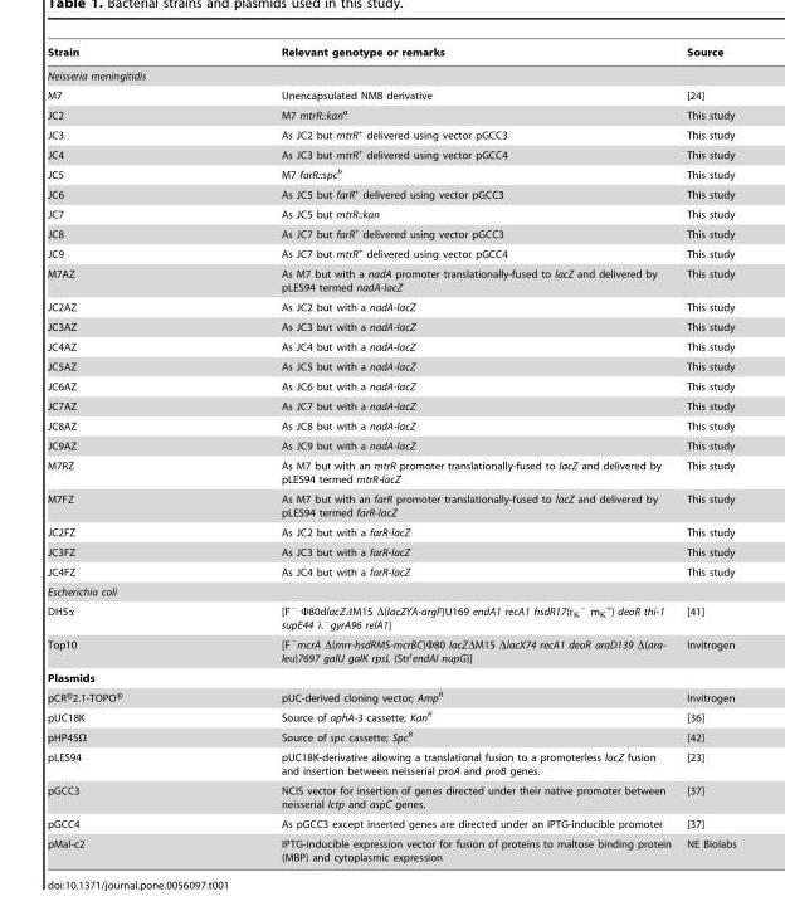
<table><thead><tr><td>Strain</td><td>Relevant genotype or remarks</td><td>Source</td></tr></thead><tbody><tr><td colspan="3">Neisseria meningitidis</td></tr><tr><td>M7</td><td>Unencapsulated NMB derivative</td><td>[24]</td></tr><tr><td>JC2</td><td>M7 mtrR::kan<sup>a</sup></td><td>This study</td></tr><tr><td>JC3</td><td>As JC2 but mtrR<sup>+</sup> delivered using vector pGCC3</td><td>This study</td></tr><tr><td>JC4</td><td>As JC3 but mtrR<sup>+</sup> delivered using vector pGCC4</td><td>This study</td></tr><tr><td>JC5</td><td>M7 farR::spc<sup>b</sup></td><td>This study</td></tr><tr><td>JC6</td><td>As JC5 but farR<sup>+</sup> delivered using vector pGCC3</td><td>This study</td></tr><tr><td>JC7</td><td>As JC5 but mtrR::kan</td><td>This study</td></tr><tr><td>JC8</td><td>As JC7 but farR<sup>+</sup> delivered using vector pGCC3</td><td>This study</td></tr><tr><td>JC9</td><td>As JC7 but mtrR<sup>+</sup> delivered using vector pGCC4</td><td>This study</td></tr><tr><td>M7AZ</td><td>As M7 but with a nadA promoter translationally-fused to lacZ and delivered by pLES94 termed nadA-lacZ</td><td>This study</td></tr><tr><td>JC2AZ</td><td>As JC2 but with a nadA-lacZ</td><td>This study</td></tr><tr><td>JC3AZ</td><td>As JC3 but with a nadA-lacZ</td><td>This study</td></tr><tr><td>JC4AZ</td><td>As JC4 but with a nadA-lacZ</td><td>This study</td></tr><tr><td>JC5AZ</td><td>As JC5 but with a nadA-lacZ</td><td>This study</td></tr><tr><td>JC6AZ</td><td>As JC6 but with a nadA-lacZ</td><td>This study</td></tr><tr><td>JC7AZ</td><td>As JC7 but with a nadA-lacZ</td><td>This study</td></tr><tr><td>JC8AZ</td><td>As JC8 but with a nadA-lacZ</td><td>This study</td></tr><tr><td>JC9AZ</td><td>As JC9 but with a nadA-lacZ</td><td>This study</td></tr><tr><td>M7RZ</td><td>As M7 but with an mtrR promoter translationally-fused to lacZ and delivered by pLES94 termed mtrR-lacZ</td><td>This study</td></tr><tr><td>M7FZ</td><td>As M7 but with an farR promoter translationally-fused to lacZ and delivered by pLES94 termed farR-lacZ</td><td>This study</td></tr><tr><td>JC2FZ</td><td>As JC2 but with a farR-lacZ</td><td>This study</td></tr><tr><td>JC3FZ</td><td>As JC3 but with a farR-lacZ</td><td>This study</td></tr><tr><td>JC4FZ</td><td>As JC4 but with a farR-lacZ</td><td>This study</td></tr><tr><td colspan="3">Escherichia coli</td></tr><tr><td>DH5α</td><td>[F− Φ80dlacZΔM15 Δ(lacZYA-argF)U169 endA1 recA1 hsdR17(rK − mK +) deoR thi-1 supE44 λ−gyrA96 relA1]</td><td>[41]</td></tr><tr><td>Top10</td><td>[F<sup>−</sup>mcrA Δ(mrr-hsdRMS-mcrBC)Φ80 lacZΔM15 ΔlacX74 recA1 deoR araD139 Δ(ara- leu)7697 galU galK rpsL (Str<sup>r</sup>endAI nupG)]</td><td>Invitrogen</td></tr><tr><td colspan="3">Plasmids</td></tr><tr><td>pCR®2.1-TOPO®</td><td>pUC-derived cloning vector; Amp<sup>R</sup></td><td>Invitrogen</td></tr><tr><td>pUC18K</td><td>Source of aphA-3 cassette; Kan<sup>R</sup></td><td>[36]</td></tr><tr><td>pHP45Ω</td><td>Source of spc cassette; Spc<sup>R</sup></td><td>[42]</td></tr><tr><td>pLES94</td><td>pUC18K-derivative allowing a translational fusion to a promoterless lacZ fusion and insertion between neisserial proA and proB genes.</td><td>[23]</td></tr><tr><td>pGCC3</td><td>NCIS vector for insertion of genes directed under their native promoter between neisserial lctp and aspC genes.</td><td>[37]</td></tr><tr><td>pGCC4</td><td>As pGCC3 except inserted genes are directed under an IPTG-inducible promoter</td><td>[37]</td></tr><tr><td>pMal-c2</td><td>IPTG-inducible expression vector for fusion of proteins to maltose binding protein (MBP) and cytoplasmic expression</td><td>NE Biolabs</td></tr></tbody></table>